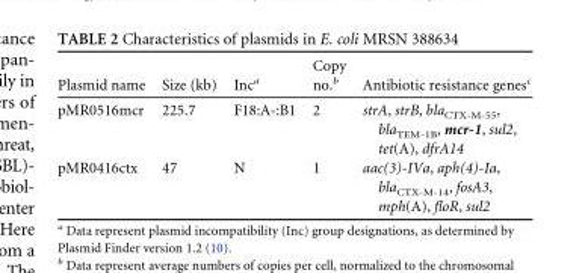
<table><thead><tr><td>Plasmid name</td><td>Size (kb)</td><td>Inc<sup>a</sup></td><td>Copy no.<sup>b</sup></td><td>Antibiotic resistance genes<sup>c</sup></td></tr></thead><tbody><tr><td>pMR0516mcr</td><td>225.7</td><td>F18:A-:B1</td><td>2</td><td>strA, strB, bla<sub>CTX-M-55</sub>, bla<sub>TEM-1B</sub>, mcr-1, sul2, tet(A), dfrA14</td></tr><tr><td>pMR0416ctx</td><td>47</td><td>N</td><td>1</td><td>aac(3)-IVa, aph(4)-Ia, bla<sub>CTX-M-14</sub>, fosA3, mph(A), floR, sul2</td></tr></tbody></table>